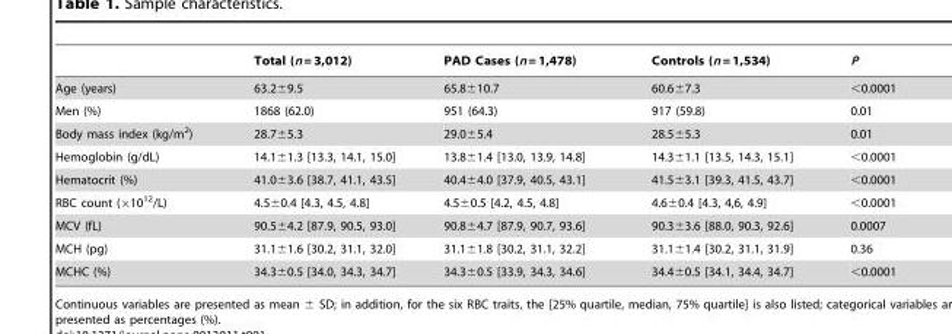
<table><thead><tr><td></td><td>Total (n = 3,012)</td><td>PAD Cases (n = 1,478)</td><td>Controls (n = 1,534)</td><td>P</td></tr></thead><tbody><tr><td>Age (years)</td><td>63.2±9.5</td><td>65.8±10.7</td><td>60.6±7.3</td><td>&lt;0.0001</td></tr><tr><td>Men (%)</td><td>1868 (62.0)</td><td>951 (64.3)</td><td>917 (59.8)</td><td>0.01</td></tr><tr><td>Body mass index (kg/m<sup>2</sup>)</td><td>28.7±5.3</td><td>29.0±5.4</td><td>28.5±5.3</td><td>0.01</td></tr><tr><td>Hemoglobin (g/dL)</td><td>14.1±1.3 [13.3, 14.1, 15.0]</td><td>13.8±1.4 [13.0, 13.9, 14.8]</td><td>14.3±1.1 [13.5, 14.3, 15.1]</td><td>&lt;0.0001</td></tr><tr><td>Hematocrit (%)</td><td>41.0±3.6 [38.7, 41.1, 43.5]</td><td>40.4±4.0 [37.9, 40.5, 43.1]</td><td>41.5±3.1 [39.3, 41.5, 43.7]</td><td>&lt;0.0001</td></tr><tr><td>RBC count (×10<sup>12</sup>/L)</td><td>4.5±0.4 [4.3, 4.5, 4.8]</td><td>4.5±0.5 [4.2, 4.5, 4.8]</td><td>4.6±0.4 [4.3, 4,6, 4.9]</td><td>&lt;0.0001</td></tr><tr><td>MCV (fL)</td><td>90.5±4.2 [87.9, 90.5, 93.0]</td><td>90.8±4.7 [87.9, 90.7, 93.6]</td><td>90.3±3.6 [88.0, 90.3, 92.6]</td><td>0.0007</td></tr><tr><td>MCH (pg)</td><td>31.1±1.6 [30.2, 31.1, 32.0]</td><td>31.1±1.8 [30.2, 31.1, 32.2]</td><td>31.1±1.4 [30.2, 31.1, 31.9]</td><td>0.36</td></tr><tr><td>MCHC (%)</td><td>34.3±0.5 [34.0, 34.3, 34.7]</td><td>34.3±0.5 [33.9, 34.3, 34.6]</td><td>34.4±0.5 [34.1, 34.4, 34.7]</td><td>&lt;0.0001</td></tr></tbody></table>